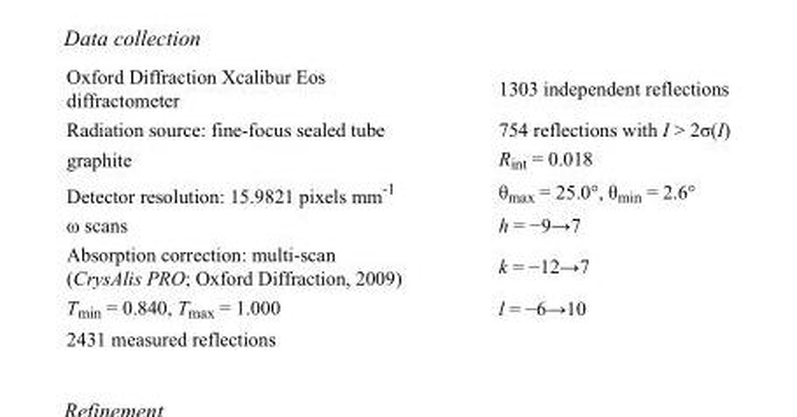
<table><tbody><tr><td>Oxford Diffraction Xcalibur Eos diffractometer</td><td>1303 independent reflections</td></tr><tr><td>Radiation source: fine-focus sealed tube</td><td>754 reflections with I &gt; 2σ(I)</td></tr><tr><td>graphite</td><td>R<sub>int</sub> = 0.018</td></tr><tr><td>Detector resolution: 15.9821 pixels mm<sup>-1</sup></td><td>θ<sub>max</sub> = 25.0°, θ<sub>min</sub> = 2.6°</td></tr><tr><td>ω scans</td><td>h = −9→7</td></tr><tr><td>Absorption correction: multi-scan (CrysAlis PRO; Oxford Diffraction, 2009)</td><td>k = −12→7</td></tr><tr><td>T<sub>min</sub> = 0.840, T<sub>max</sub> = 1.000</td><td>l = −6→10</td></tr><tr><td>2431 measured reflections</td><td></td></tr></tbody></table>